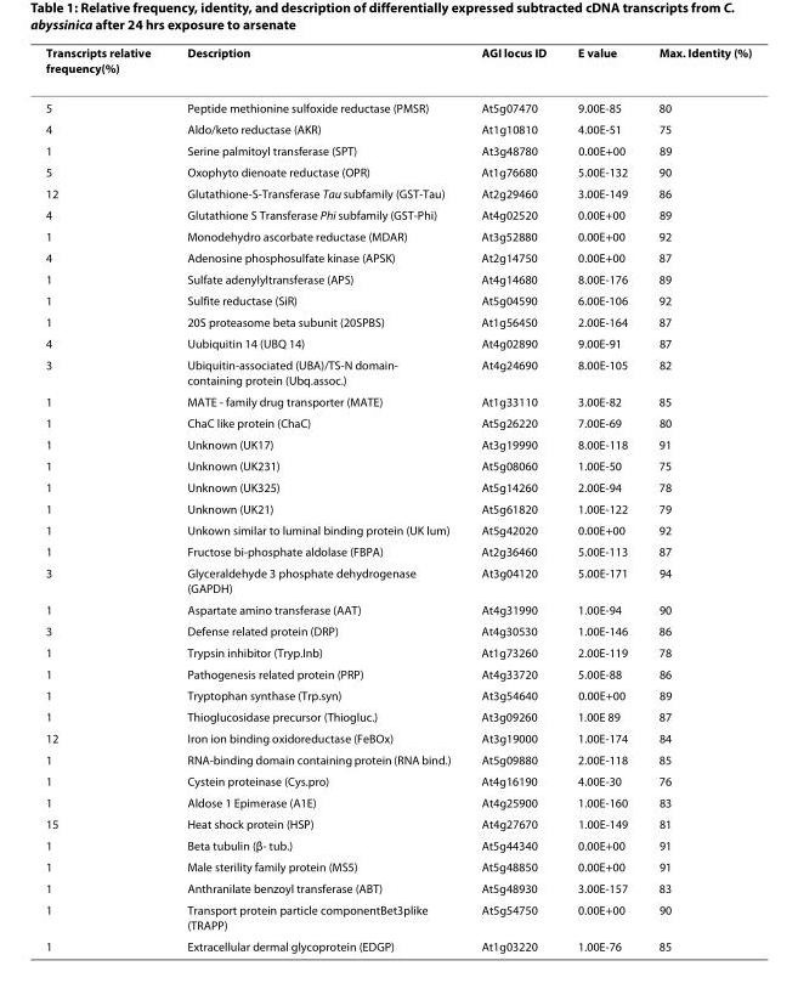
<table><thead><tr><td>Transcripts relative frequency(%)</td><td>Description</td><td>AGI locus ID</td><td>E value</td><td>Max. Identity (%)</td></tr></thead><tbody><tr><td>5</td><td>Peptide methionine sulfoxide reductase (PMSR)</td><td>At5g07470</td><td>9.00E-85</td><td>80</td></tr><tr><td>4</td><td>Aldo/keto reductase (AKR)</td><td>At1g10810</td><td>4.00E-51</td><td>75</td></tr><tr><td>1</td><td>Serine palmitoyl transferase (SPT)</td><td>At3g48780</td><td>0.00E+00</td><td>89</td></tr><tr><td>5</td><td>Oxophyto dienoate reductase (OPR)</td><td>At1g76680</td><td>5.00E-132</td><td>90</td></tr><tr><td>12</td><td>Glutathione-S-Transferase Tau subfamily (GST-Tau)</td><td>At2g29460</td><td>3.00E-149</td><td>86</td></tr><tr><td>4</td><td>Glutathione S Transferase Phi subfamily (GST-Phi)</td><td>At4g02520</td><td>0.00E+00</td><td>89</td></tr><tr><td>1</td><td>Monodehydro ascorbate reductase (MDAR)</td><td>At3g52880</td><td>0.00E+00</td><td>92</td></tr><tr><td>4</td><td>Adenosine phosphosulfate kinase (APSK)</td><td>At2g14750</td><td>0.00E+00</td><td>87</td></tr><tr><td>1</td><td>Sulfate adenylyltransferase (APS)</td><td>At4g14680</td><td>8.00E-176</td><td>89</td></tr><tr><td>1</td><td>Sulfite reductase (SiR)</td><td>At5g04590</td><td>6.00E-106</td><td>92</td></tr><tr><td>1</td><td>20S proteasome beta subunit (20SPBS)</td><td>At1g56450</td><td>2.00E-164</td><td>87</td></tr><tr><td>4</td><td>Uubiquitin 14 (UBQ 14)</td><td>At4g02890</td><td>9.00E-91</td><td>87</td></tr><tr><td>3</td><td>Ubiquitin-associated (UBA)/TS-N domain- containing protein (Ubq.assoc.)</td><td>At4g24690</td><td>8.00E-105</td><td>82</td></tr><tr><td>1</td><td>MATE - family drug transporter (MATE)</td><td>At1g33110</td><td>3.00E-82</td><td>85</td></tr><tr><td>1</td><td>ChaC like protein (ChaC)</td><td>At5g26220</td><td>7.00E-69</td><td>80</td></tr><tr><td>1</td><td>Unknown (UK17)</td><td>At3g19990</td><td>8.00E-118</td><td>91</td></tr><tr><td>1</td><td>Unknown (UK231)</td><td>At5g08060</td><td>1.00E-50</td><td>75</td></tr><tr><td>1</td><td>Unknown (UK325)</td><td>At5g14260</td><td>2.00E-94</td><td>78</td></tr><tr><td>1</td><td>Unknown (UK21)</td><td>At5g61820</td><td>1.00E-122</td><td>79</td></tr><tr><td>1</td><td>Unkown similar to luminal binding protein (UK lum)</td><td>At5g42020</td><td>0.00E+00</td><td>92</td></tr><tr><td>1</td><td>Fructose bi-phosphate aldolase (FBPA)</td><td>At2g36460</td><td>5.00E-113</td><td>87</td></tr><tr><td>3</td><td>Glyceraldehyde 3 phosphate dehydrogenase (GAPDH)</td><td>At3g04120</td><td>5.00E-171</td><td>94</td></tr><tr><td>1</td><td>Aspartate amino transferase (AAT)</td><td>At4g31990</td><td>1.00E-94</td><td>90</td></tr><tr><td>3</td><td>Defense related protein (DRP)</td><td>At4g30530</td><td>1.00E-146</td><td>86</td></tr><tr><td>1</td><td>Trypsin inhibitor (Tryp.Inb)</td><td>At1g73260</td><td>2.00E-119</td><td>78</td></tr><tr><td>1</td><td>Pathogenesis related protein (PRP)</td><td>At4g33720</td><td>5.00E-88</td><td>86</td></tr><tr><td>1</td><td>Tryptophan synthase (Trp.syn)</td><td>At3g54640</td><td>0.00E+00</td><td>89</td></tr><tr><td>1</td><td>Thioglucosidase precursor (Thiogluc.)</td><td>At3g09260</td><td>1.00E 89</td><td>87</td></tr><tr><td>12</td><td>Iron ion binding oxidoreductase (FeBOx)</td><td>At3g19000</td><td>1.00E-174</td><td>84</td></tr><tr><td>1</td><td>RNA-binding domain containing protein (RNA bind.)</td><td>At5g09880</td><td>2.00E-118</td><td>85</td></tr><tr><td>1</td><td>Cystein proteinase (Cys.pro)</td><td>At4g16190</td><td>4.00E-30</td><td>76</td></tr><tr><td>1</td><td>Aldose 1 Epimerase (A1E)</td><td>At4g25900</td><td>1.00E-160</td><td>83</td></tr><tr><td>15</td><td>Heat shock protein (HSP)</td><td>At4g27670</td><td>1.00E-149</td><td>81</td></tr><tr><td>1</td><td>Beta tubulin (β- tub.)</td><td>At5g44340</td><td>0.00E+00</td><td>91</td></tr><tr><td>1</td><td>Male sterility family protein (MS5)</td><td>At5g48850</td><td>0.00E+00</td><td>91</td></tr><tr><td>1</td><td>Anthranilate benzoyl transferase (ABT)</td><td>At5g48930</td><td>3.00E-157</td><td>83</td></tr><tr><td>1</td><td>Transport protein particle componentBet3plike (TRAPP)</td><td>At5g54750</td><td>0.00E+00</td><td>90</td></tr><tr><td>1</td><td>Extracellular dermal glycoprotein (EDGP)</td><td>At1g03220</td><td>1.00E-76</td><td>85</td></tr></tbody></table>